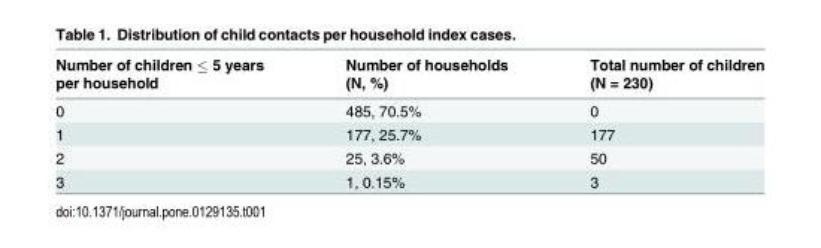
<table><thead><tr><td>Number of children ≤ 5 years per household</td><td>Number of households (N, %)</td><td>Total number of children (N = 230)</td></tr></thead><tbody><tr><td>0</td><td>485, 70.5%</td><td>0</td></tr><tr><td>1</td><td>177, 25.7%</td><td>177</td></tr><tr><td>2</td><td>25, 3.6%</td><td>50</td></tr><tr><td>3</td><td>1, 0.15%</td><td>3</td></tr></tbody></table>